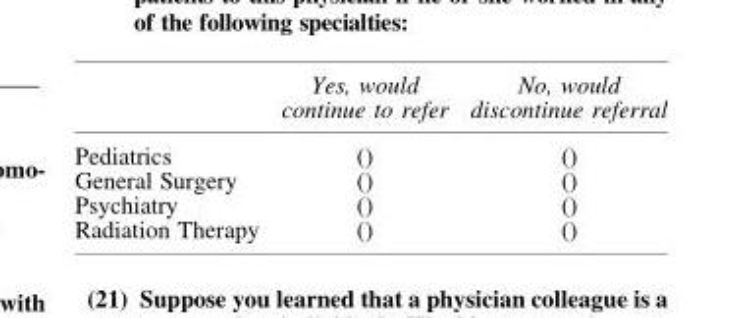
<table><thead><tr><td></td><td>Yes, would continue to refer</td><td>No, would discontinue referral</td></tr></thead><tbody><tr><td>Pediatrics</td><td>()</td><td>()</td></tr><tr><td>General Surgery</td><td>()</td><td>()</td></tr><tr><td>Psychiatry</td><td>()</td><td>()</td></tr><tr><td>Radiation Therapy</td><td>()</td><td>()</td></tr></tbody></table>